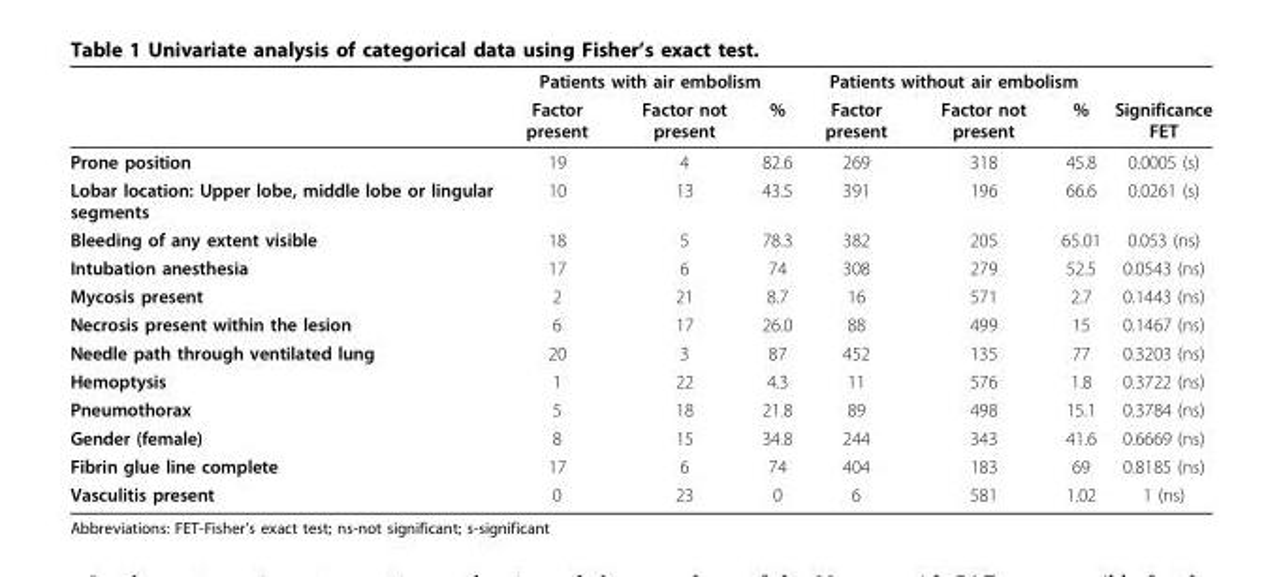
<table><thead><tr><td rowspan="2"></td><td colspan="3">Patients with air embolism</td><td colspan="3">Patients without air embolism</td><td rowspan="2">Significance FET</td></tr><tr><td>Factor present</td><td>Factor not present</td><td>%</td><td>Factor present</td><td>Factor not present</td><td>%</td></tr></thead><tbody><tr><td>Prone position</td><td>19</td><td>4</td><td>82.6</td><td>269</td><td>318</td><td>45.8</td><td>0.0005 (s)</td></tr><tr><td>Lobar location: Upper lobe, middle lobe or lingular segments</td><td>10</td><td>13</td><td>43.5</td><td>391</td><td>196</td><td>66.6</td><td>0.0261 (s)</td></tr><tr><td>Bleeding of any extent visible</td><td>18</td><td>5</td><td>78.3</td><td>382</td><td>205</td><td>65.01</td><td>0.053 (ns)</td></tr><tr><td>Intubation anesthesia</td><td>17</td><td>6</td><td>74</td><td>308</td><td>279</td><td>52.5</td><td>0.0543 (ns)</td></tr><tr><td>Mycosis present</td><td>2</td><td>21</td><td>8.7</td><td>16</td><td>571</td><td>2.7</td><td>0.1443 (ns)</td></tr><tr><td>Necrosis present within the lesion</td><td>6</td><td>17</td><td>26.0</td><td>88</td><td>499</td><td>15</td><td>0.1467 (ns)</td></tr><tr><td>Needle path through ventilated lung</td><td>20</td><td>3</td><td>87</td><td>452</td><td>135</td><td>77</td><td>0.3203 (ns)</td></tr><tr><td>Hemoptysis</td><td>1</td><td>22</td><td>4.3</td><td>11</td><td>576</td><td>1.8</td><td>0.3722 (ns)</td></tr><tr><td>Pneumothorax</td><td>5</td><td>18</td><td>21.8</td><td>89</td><td>498</td><td>15.1</td><td>0.3784 (ns)</td></tr><tr><td>Gender (female)</td><td>8</td><td>15</td><td>34.8</td><td>244</td><td>343</td><td>41.6</td><td>0.6669 (ns)</td></tr><tr><td>Fibrin glue line complete</td><td>17</td><td>6</td><td>74</td><td>404</td><td>183</td><td>69</td><td>0.8185 (ns)</td></tr><tr><td>Vasculitis present</td><td>0</td><td>23</td><td>0</td><td>6</td><td>581</td><td>1.02</td><td>1 (ns)</td></tr></tbody></table>